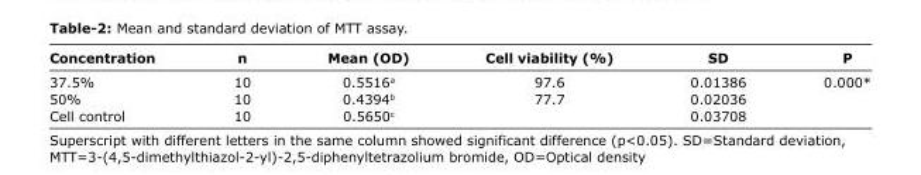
<table><thead><tr><td>Concentration</td><td>n</td><td>Mean (OD)</td><td>Cell viability (%)</td><td>SD</td><td>P</td></tr></thead><tbody><tr><td>37.5%</td><td>10</td><td>0.5516<sup>a</sup></td><td>97.6</td><td>0.01386</td><td>0.000*</td></tr><tr><td>50%</td><td>10</td><td>0.4394<sup>b</sup></td><td>77.7</td><td>0.02036</td><td></td></tr><tr><td>Cell control</td><td>10</td><td>0.5650<sup>c</sup></td><td></td><td>0.03708</td><td></td></tr></tbody></table>